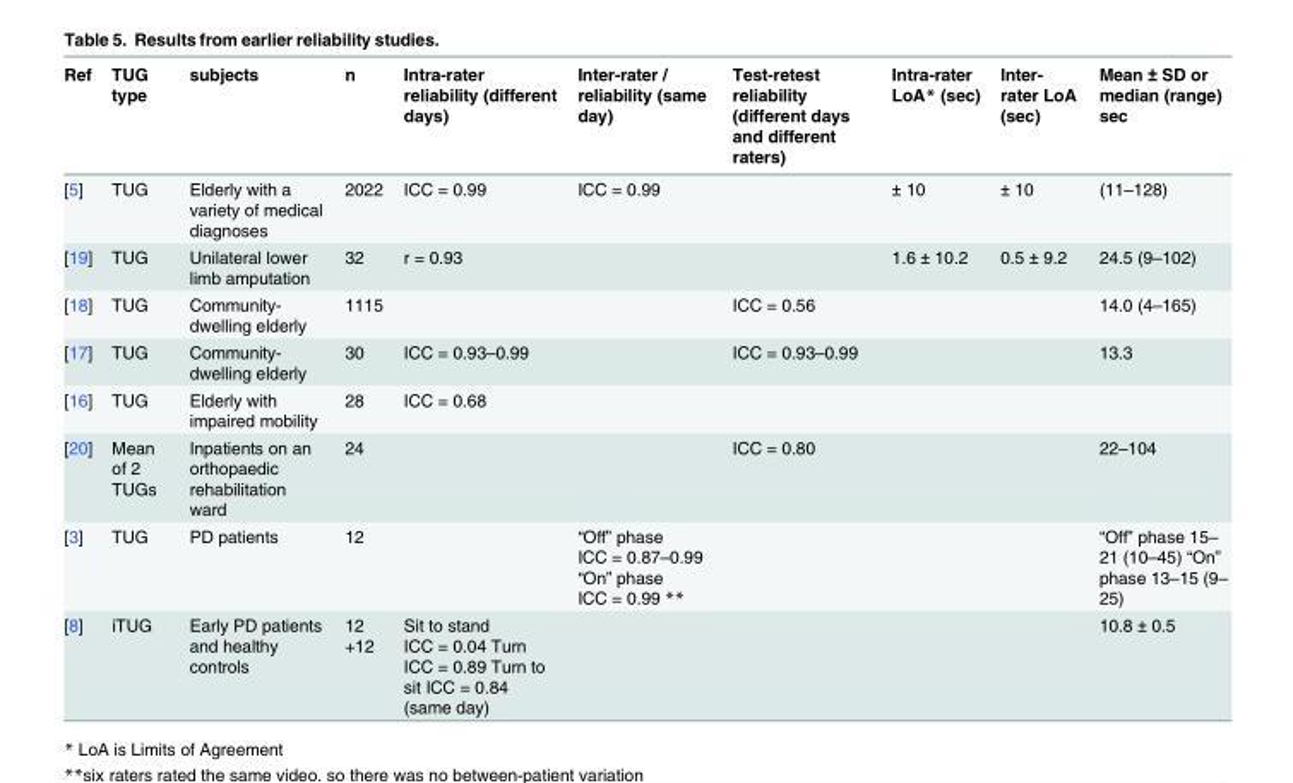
<table><thead><tr><td>Ref</td><td>TUG type</td><td>subjects</td><td>n</td><td>Intra-rater reliability (different days)</td><td>Inter-rater / reliability (same day)</td><td>Test-retest reliability (different days and different raters)</td><td>Intra-rater LoA* (sec)</td><td>Inter- rater LoA (sec)</td><td>Mean ± SD or median (range) sec</td></tr></thead><tbody><tr><td>[5]</td><td>TUG</td><td>Elderly with a variety of medical diagnoses</td><td>2022</td><td>ICC = 0.99</td><td>ICC = 0.99</td><td></td><td>± 10</td><td>± 10</td><td>(11–128)</td></tr><tr><td>[19]</td><td>TUG</td><td>Unilateral lower limb amputation</td><td>32</td><td>r = 0.93</td><td></td><td></td><td>1.6 ± 10.2</td><td>0.5 ± 9.2</td><td>24.5 (9–102)</td></tr><tr><td>[18]</td><td>TUG</td><td>Community- dwelling elderly</td><td>1115</td><td></td><td></td><td>ICC = 0.56</td><td></td><td></td><td>14.0 (4–165)</td></tr><tr><td>[17]</td><td>TUG</td><td>Community- dwelling elderly</td><td>30</td><td>ICC = 0.93–0.99</td><td></td><td>ICC = 0.93–0.99</td><td></td><td></td><td>13.3</td></tr><tr><td>[16]</td><td>TUG</td><td>Elderly with impaired mobility</td><td>28</td><td>ICC = 0.68</td><td></td><td></td><td></td><td></td><td></td></tr><tr><td>[20]</td><td>Mean of 2 TUGs</td><td>Inpatients on an orthopaedic rehabilitation ward</td><td>24</td><td></td><td></td><td>ICC = 0.80</td><td></td><td></td><td>22–104</td></tr><tr><td>[3]</td><td>TUG</td><td>PD patients</td><td>12</td><td></td><td>“Off” phase ICC = 0.87–0.99 “On” phase ICC = 0.99 **</td><td></td><td></td><td></td><td>“Off” phase 15– 21 (10–45) “On” phase 13–15 (9– 25)</td></tr><tr><td>[8]</td><td>iTUG</td><td>Early PD patients and healthy controls</td><td>12 +12</td><td>Sit to stand ICC = 0.04 Turn ICC = 0.89 Turn to sit ICC = 0.84 (same day)</td><td></td><td></td><td></td><td></td><td>10.8 ± 0.5</td></tr></tbody></table>